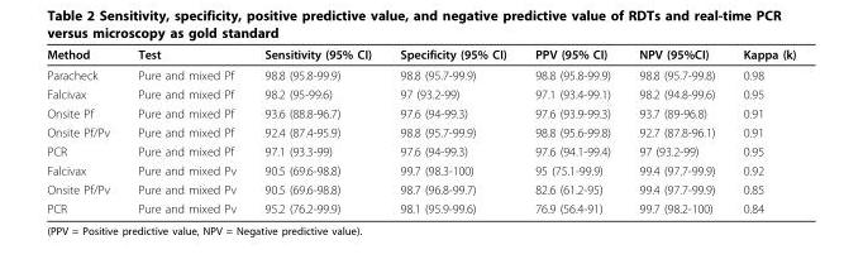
<table><thead><tr><td>Method</td><td>Test</td><td>Sensitivity (95% CI)</td><td>Specificity (95% CI)</td><td>PPV (95% CI)</td><td>NPV (95%CI)</td><td>Kappa (k)</td></tr></thead><tbody><tr><td>Paracheck</td><td>Pure and mixed Pf</td><td>98.8 (95.8-99.9)</td><td>98.8 (95.7-99.9)</td><td>98.8 (95.8-99.9)</td><td>98.8 (95.7-99.8)</td><td>0.98</td></tr><tr><td>Falcivax</td><td>Pure and mixed Pf</td><td>98.2 (95-99.6)</td><td>97 (93.2-99)</td><td>97.1 (93.4-99.1)</td><td>98.2 (94.8-99.6)</td><td>0.95</td></tr><tr><td>Onsite Pf</td><td>Pure and mixed Pf</td><td>93.6 (88.8-96.7)</td><td>97.6 (94-99.3)</td><td>97.6 (93.9-99.3)</td><td>93.7 (89-96.8)</td><td>0.91</td></tr><tr><td>Onsite Pf/Pv</td><td>Pure and mixed Pf</td><td>92.4 (87.4-95.9)</td><td>98.8 (95.7-99.9)</td><td>98.8 (95.6-99.8)</td><td>92.7 (87.8-96.1)</td><td>0.91</td></tr><tr><td>PCR</td><td>Pure and mixed Pf</td><td>97.1 (93.3-99)</td><td>97.6 (94-99.3)</td><td>97.6 (94.1-99.4)</td><td>97 (93.2-99)</td><td>0.95</td></tr><tr><td>Falcivax</td><td>Pure and mixed Pv</td><td>90.5 (69.6-98.8)</td><td>99.7 (98.3-100)</td><td>95 (75.1-99.9)</td><td>99.4 (97.7-99.9)</td><td>0.92</td></tr><tr><td>Onsite Pf/Pv</td><td>Pure and mixed Pv</td><td>90.5 (69.6-98.8)</td><td>98.7 (96.8-99.7)</td><td>82.6 (61.2-95)</td><td>99.4 (97.7-99.9)</td><td>0.85</td></tr><tr><td>PCR</td><td>Pure and mixed Pv</td><td>95.2 (76.2-99.9)</td><td>98.1 (95.9-99.6)</td><td>76.9 (56.4-91)</td><td>99.7 (98.2-100)</td><td>0.84</td></tr></tbody></table>